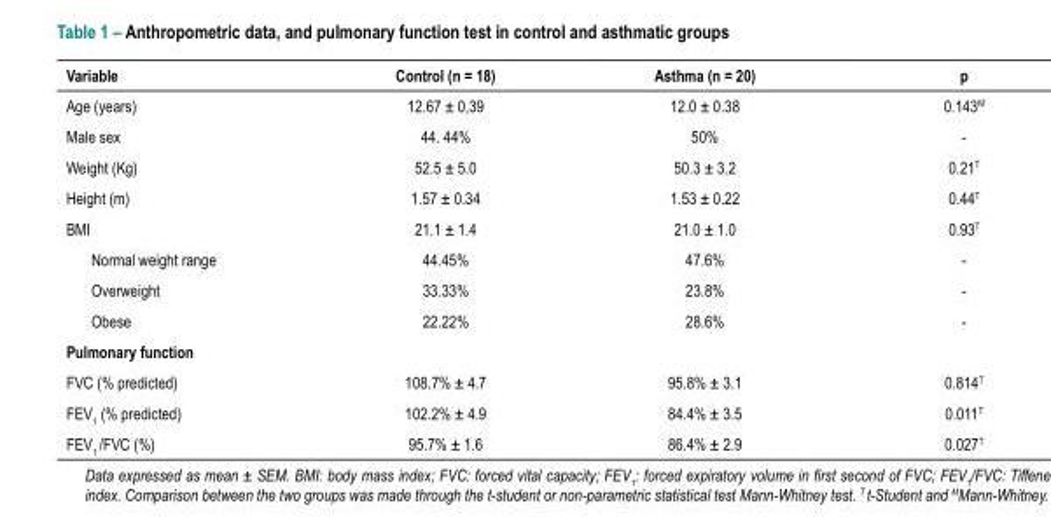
<table><thead><tr><td>Variable</td><td>Control (n = 18)</td><td>Asthma (n = 20)</td><td>p</td></tr></thead><tbody><tr><td>Age (years)</td><td>12.67 ± 0,39</td><td>12.0 ± 0.38</td><td>0.143<sup>M</sup></td></tr><tr><td>Male sex</td><td>44. 44%</td><td>50%</td><td>-</td></tr><tr><td>Weight (Kg)</td><td>52.5 ± 5.0</td><td>50.3 ± 3.2</td><td>0.21<sup>T</sup></td></tr><tr><td>Height (m)</td><td>1.57 ± 0.34</td><td>1.53 ± 0.22</td><td>0.44<sup>T</sup></td></tr><tr><td>BMI</td><td>21.1 ± 1.4</td><td>21.0 ± 1.0</td><td>0.93<sup>T</sup></td></tr><tr><td>Normal weight range</td><td>44.45%</td><td>47.6%</td><td>-</td></tr><tr><td>Overweight</td><td>33.33%</td><td>23.8%</td><td>-</td></tr><tr><td>Obese</td><td>22.22%</td><td>28.6%</td><td>-</td></tr><tr><td colspan="4">Pulmonary function</td></tr><tr><td>FVC (% predicted)</td><td>108.7% ± 4.7</td><td>95.8% ± 3.1</td><td>0.814<sup>T</sup></td></tr><tr><td>FEV<sub>1</sub> (% predicted)</td><td>102.2% ± 4.9</td><td>84.4% ± 3.5</td><td>0.011<sup>T</sup></td></tr><tr><td>FEV<sub>1</sub> /FVC (%)</td><td>95.7% ± 1.6</td><td>86.4% ± 2.9</td><td>0.027<sup>T</sup></td></tr></tbody></table>